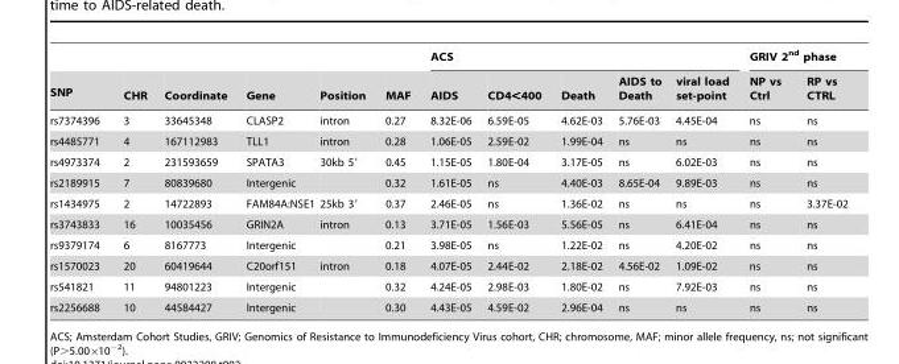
<table><thead><tr><td rowspan="2">SNP</td><td rowspan="2">CHR</td><td rowspan="2">Coordinate</td><td rowspan="2">Gene</td><td rowspan="2">Position</td><td rowspan="2">MAF</td><td colspan="5">ACS</td><td colspan="2">GRIV 2<sup>nd</sup> phase</td></tr><tr><td>AIDS</td><td>CD4&lt;400</td><td>Death</td><td>AIDS to Death</td><td>viral load set-point</td><td>NP vs Ctrl</td><td>RP vs CTRL</td></tr></thead><tbody><tr><td>rs7374396</td><td>3</td><td>33645348</td><td>CLASP2</td><td>intron</td><td>0.27</td><td>8.32E-06</td><td>6.59E-05</td><td>4.62E-03</td><td>5.76E-03</td><td>4.45E-04</td><td>ns</td><td>ns</td></tr><tr><td>rs4485771</td><td>4</td><td>167112983</td><td>TLL1</td><td>intron</td><td>0.28</td><td>1.06E-05</td><td>2.59E-02</td><td>1.99E-04</td><td>ns</td><td>ns</td><td>ns</td><td>ns</td></tr><tr><td>rs4973374</td><td>2</td><td>231593659</td><td>SPATA3</td><td>30kb 5′</td><td>0.45</td><td>1.15E-05</td><td>1.80E-04</td><td>3.17E-05</td><td>ns</td><td>6.02E-03</td><td>ns</td><td>ns</td></tr><tr><td>rs2189915</td><td>7</td><td>80839680</td><td>Intergenic</td><td></td><td>0.32</td><td>1.61E-05</td><td>ns</td><td>4.40E-03</td><td>8.65E-04</td><td>9.89E-03</td><td>ns</td><td>ns</td></tr><tr><td>rs1434975</td><td>2</td><td>14722893</td><td>FAM84A:NSE1</td><td>25kb 3′</td><td>0.37</td><td>2.46E-05</td><td>ns</td><td>1.36E-02</td><td>ns</td><td>ns</td><td>ns</td><td>3.37E-02</td></tr><tr><td>rs3743833</td><td>16</td><td>10035456</td><td>GRIN2A</td><td>intron</td><td>0.13</td><td>3.71E-05</td><td>1.56E-03</td><td>5.56E-05</td><td>ns</td><td>6.41E-04</td><td>ns</td><td>ns</td></tr><tr><td>rs9379174</td><td>6</td><td>8167773</td><td>Intergenic</td><td></td><td>0.21</td><td>3.98E-05</td><td>ns</td><td>1.22E-02</td><td>ns</td><td>4.20E-02</td><td>ns</td><td>ns</td></tr><tr><td>rs1570023</td><td>20</td><td>60419644</td><td>C20orf151</td><td>intron</td><td>0.18</td><td>4.07E-05</td><td>2.44E-02</td><td>2.18E-02</td><td>4.56E-02</td><td>1.09E-02</td><td>ns</td><td>ns</td></tr><tr><td>rs541821</td><td>11</td><td>94801223</td><td>Intergenic</td><td></td><td>0.32</td><td>4.24E-05</td><td>2.98E-03</td><td>1.80E-02</td><td>ns</td><td>7.92E-03</td><td>ns</td><td>ns</td></tr><tr><td>rs2256688</td><td>10</td><td>44584427</td><td>Intergenic</td><td></td><td>0.30</td><td>4.43E-05</td><td>4.59E-02</td><td>2.96E-04</td><td>ns</td><td>ns</td><td>ns</td><td>ns</td></tr></tbody></table>